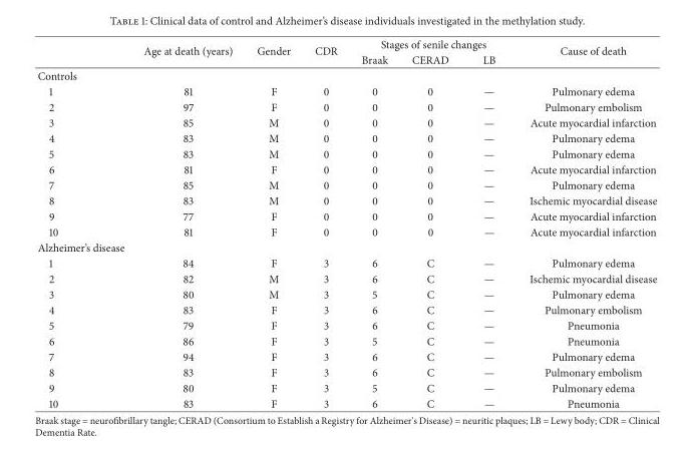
<table><thead><tr><td rowspan="2"></td><td rowspan="2">Age at death (years)</td><td rowspan="2">Gender</td><td rowspan="2">CDR</td><td colspan="3">Stages of senile changes</td><td rowspan="2">Cause of death</td></tr><tr><td>Braak</td><td>CERAD</td><td>LB</td></tr></thead><tbody><tr><td colspan="8">Controls</td></tr><tr><td>1</td><td>81</td><td>F</td><td>0</td><td>0</td><td>0</td><td>—</td><td>Pulmonary edema</td></tr><tr><td>2</td><td>97</td><td>F</td><td>0</td><td>0</td><td>0</td><td>—</td><td>Pulmonary embolism</td></tr><tr><td>3</td><td>85</td><td>M</td><td>0</td><td>0</td><td>0</td><td>—</td><td>Acute myocardial infarction</td></tr><tr><td>4</td><td>83</td><td>M</td><td>0</td><td>0</td><td>0</td><td>—</td><td>Pulmonary edema</td></tr><tr><td>5</td><td>83</td><td>M</td><td>0</td><td>0</td><td>0</td><td>—</td><td>Pulmonary edema</td></tr><tr><td>6</td><td>81</td><td>F</td><td>0</td><td>0</td><td>0</td><td>—</td><td>Acute myocardial infarction</td></tr><tr><td>7</td><td>85</td><td>M</td><td>0</td><td>0</td><td>0</td><td>—</td><td>Pulmonary edema</td></tr><tr><td>8</td><td>83</td><td>M</td><td>0</td><td>0</td><td>0</td><td>—</td><td>Ischemic myocardial disease</td></tr><tr><td>9</td><td>77</td><td>F</td><td>0</td><td>0</td><td>0</td><td>—</td><td>Acute myocardial infarction</td></tr><tr><td>10</td><td>81</td><td>F</td><td>0</td><td>0</td><td>0</td><td>—</td><td>Acute myocardial infarction</td></tr><tr><td colspan="8">Alzheimer’s disease</td></tr><tr><td>1</td><td>84</td><td>F</td><td>3</td><td>6</td><td>C</td><td>—</td><td>Pulmonary edema</td></tr><tr><td>2</td><td>82</td><td>M</td><td>3</td><td>6</td><td>C</td><td>—</td><td>Ischemic myocardial disease</td></tr><tr><td>3</td><td>80</td><td>M</td><td>3</td><td>5</td><td>C</td><td>—</td><td>Pulmonary edema</td></tr><tr><td>4</td><td>83</td><td>F</td><td>3</td><td>6</td><td>C</td><td>—</td><td>Pulmonary embolism</td></tr><tr><td>5</td><td>79</td><td>F</td><td>3</td><td>6</td><td>C</td><td>—</td><td>Pneumonia</td></tr><tr><td>6</td><td>86</td><td>F</td><td>3</td><td>5</td><td>C</td><td>—</td><td>Pneumonia</td></tr><tr><td>7</td><td>94</td><td>F</td><td>3</td><td>6</td><td>C</td><td>—</td><td>Pulmonary edema</td></tr><tr><td>8</td><td>83</td><td>F</td><td>3</td><td>6</td><td>C</td><td>—</td><td>Pulmonary embolism</td></tr><tr><td>9</td><td>80</td><td>F</td><td>3</td><td>5</td><td>C</td><td>—</td><td>Pulmonary edema</td></tr><tr><td>10</td><td>83</td><td>F</td><td>3</td><td>6</td><td>C</td><td>—</td><td>Pneumonia</td></tr></tbody></table>